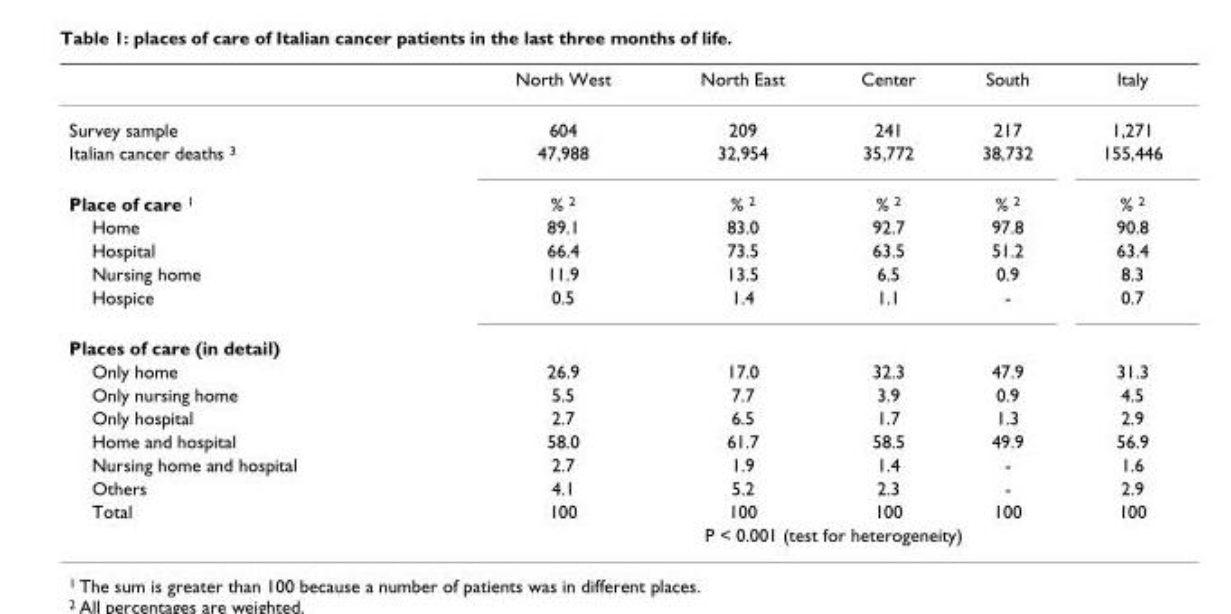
<table><thead><tr><td></td><td>North West</td><td>North East</td><td>Center</td><td>South</td><td>Italy</td></tr></thead><tbody><tr><td>Survey sample</td><td>604</td><td>209</td><td>241</td><td>217</td><td>1,271</td></tr><tr><td>Italian cancer deaths <sup>3</sup></td><td>47,988</td><td>32,954</td><td>35,772</td><td>38,732</td><td>155,446</td></tr><tr><td>Place of care <sup>1</sup></td><td>% <sup>2</sup></td><td>% <sup>2</sup></td><td>% <sup>2</sup></td><td>% <sup>2</sup></td><td>% <sup>2</sup></td></tr><tr><td>Home</td><td>89.1</td><td>83.0</td><td>92.7</td><td>97.8</td><td>90.8</td></tr><tr><td>Hospital</td><td>66.4</td><td>73.5</td><td>63.5</td><td>51.2</td><td>63.4</td></tr><tr><td>Nursing home</td><td>11.9</td><td>13.5</td><td>6.5</td><td>0.9</td><td>8.3</td></tr><tr><td>Hospice</td><td>0.5</td><td>1.4</td><td>1.1</td><td>-</td><td>0.7</td></tr><tr><td colspan="6">Places of care (in detail)</td></tr><tr><td>Only home</td><td>26.9</td><td>17.0</td><td>32.3</td><td>47.9</td><td>31.3</td></tr><tr><td>Only nursing home</td><td>5.5</td><td>7.7</td><td>3.9</td><td>0.9</td><td>4.5</td></tr><tr><td>Only hospital</td><td>2.7</td><td>6.5</td><td>1.7</td><td>1.3</td><td>2.9</td></tr><tr><td>Home and hospital</td><td>58.0</td><td>61.7</td><td>58.5</td><td>49.9</td><td>56.9</td></tr><tr><td>Nursing home and hospital</td><td>2.7</td><td>1.9</td><td>1.4</td><td>-</td><td>1.6</td></tr><tr><td>Others</td><td>4.1</td><td>5.2</td><td>2.3</td><td>-</td><td>2.9</td></tr><tr><td rowspan="2">Total</td><td>100</td><td>100</td><td>100</td><td>100</td><td>100</td></tr><tr><td colspan="5">P &lt; 0.001 (test for heterogeneity)</td></tr></tbody></table>